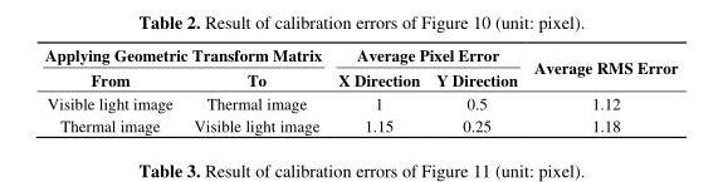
<table><thead><tr><td colspan="2">Applying Geometric Transform Matrix</td><td colspan="2">Average Pixel Error</td><td rowspan="2">Average RMS Error</td></tr><tr><td>From</td><td>To</td><td>X Direction</td><td>Y Direction</td></tr></thead><tbody><tr><td>Visible light image</td><td>Thermal image</td><td>1</td><td>0.5</td><td>1.12</td></tr><tr><td>Thermal image</td><td>Visible light image</td><td>1.15</td><td>0.25</td><td>1.18</td></tr></tbody></table>